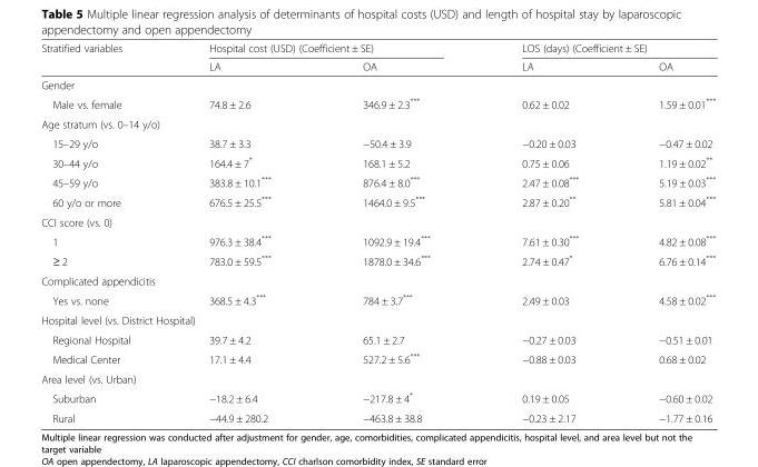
<table><thead><tr><td rowspan="2">Stratified variables</td><td colspan="2">Hospital cost (USD) (Coefficient ± SE)</td><td colspan="2">LOS (days) (Coefficient ± SE)</td></tr><tr><td>LA</td><td>OA</td><td>LA</td><td>OA</td></tr></thead><tbody><tr><td colspan="5">Gender</td></tr><tr><td>Male vs. female</td><td>74.8 ± 2.6</td><td>346.9 ± 2.3***</td><td>0.62 ± 0.02</td><td>1.59 ± 0.01***</td></tr><tr><td colspan="5">Age stratum (vs. 0–14 y/o)</td></tr><tr><td>15–29 y/o</td><td>38.7 ± 3.3</td><td>−50.4 ± 3.9</td><td>−0.20 ± 0.03</td><td>−0.47 ± 0.02</td></tr><tr><td>30–44 y/o</td><td>164.4 ± 7*</td><td>168.1 ± 5.2</td><td>0.75 ± 0.06</td><td>1.19 ± 0.02**</td></tr><tr><td>45–59 y/o</td><td>383.8 ± 10.1***</td><td>876.4 ± 8.0***</td><td>2.47 ± 0.08***</td><td>5.19 ± 0.03***</td></tr><tr><td>60 y/o or more</td><td>676.5 ± 25.5***</td><td>1464.0 ± 9.5***</td><td>2.87 ± 0.20**</td><td>5.81 ± 0.04***</td></tr><tr><td colspan="5">CCI score (vs. 0)</td></tr><tr><td>1</td><td>976.3 ± 38.4***</td><td>1092.9 ± 19.4***</td><td>7.61 ± 0.30***</td><td>4.82 ± 0.08***</td></tr><tr><td>≥ 2</td><td>783.0 ± 59.5***</td><td>1878.0 ± 34.6***</td><td>2.74 ± 0.47*</td><td>6.76 ± 0.14***</td></tr><tr><td colspan="5">Complicated appendicitis</td></tr><tr><td>Yes vs. none</td><td>368.5 ± 4.3***</td><td>784 ± 3.7***</td><td>2.49 ± 0.03</td><td>4.58 ± 0.02***</td></tr><tr><td colspan="5">Hospital level (vs. District Hospital)</td></tr><tr><td>Regional Hospital</td><td>39.7 ± 4.2</td><td>65.1 ± 2.7</td><td>−0.27 ± 0.03</td><td>−0.51 ± 0.01</td></tr><tr><td>Medical Center</td><td>17.1 ± 4.4</td><td>527.2 ± 5.6***</td><td>−0.88 ± 0.03</td><td>0.68 ± 0.02</td></tr><tr><td colspan="5">Area level (vs. Urban)</td></tr><tr><td>Suburban</td><td>−18.2 ± 6.4</td><td>−217.8 ± 4*</td><td>0.19 ± 0.05</td><td>−0.60 ± 0.02</td></tr><tr><td>Rural</td><td>−44.9 ± 280.2</td><td>−463.8 ± 38.8</td><td>−0.23 ± 2.17</td><td>−1.77 ± 0.16</td></tr></tbody></table>